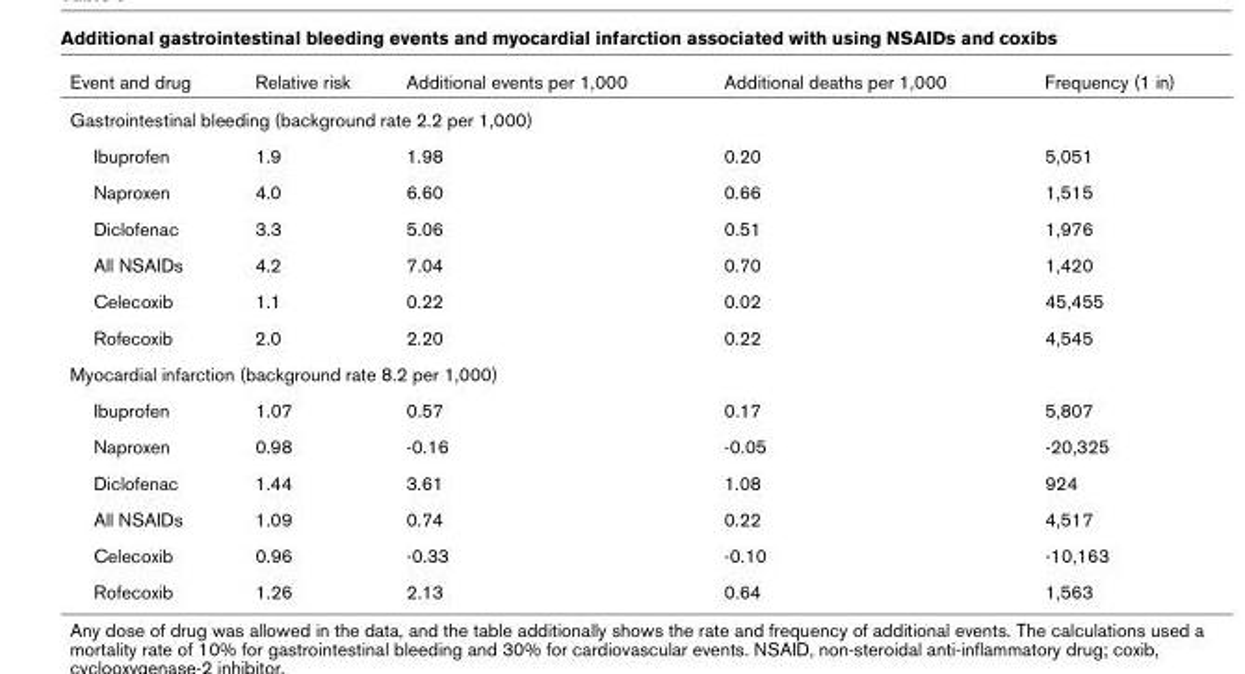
<table><thead><tr><td>Event and drug</td><td>Relative risk</td><td>Additional events per 1,000</td><td>Additional deaths per 1,000</td><td>Frequency (1 in)</td></tr></thead><tbody><tr><td colspan="5">Gastrointestinal bleeding (background rate 2.2 per 1,000)</td></tr><tr><td>Ibuprofen</td><td>1.9</td><td>1.98</td><td>0.20</td><td>5,051</td></tr><tr><td>Naproxen</td><td>4.0</td><td>6.60</td><td>0.66</td><td>1,515</td></tr><tr><td>Diclofenac</td><td>3.3</td><td>5.06</td><td>0.51</td><td>1,976</td></tr><tr><td>All NSAIDs</td><td>4.2</td><td>7.04</td><td>0.70</td><td>1,420</td></tr><tr><td>Celecoxib</td><td>1.1</td><td>0.22</td><td>0.02</td><td>45,455</td></tr><tr><td>Rofecoxib</td><td>2.0</td><td>2.20</td><td>0.22</td><td>4,545</td></tr><tr><td colspan="5">Myocardial infarction (background rate 8.2 per 1,000)</td></tr><tr><td>Ibuprofen</td><td>1.07</td><td>0.57</td><td>0.17</td><td>5,807</td></tr><tr><td>Naproxen</td><td>0.98</td><td>-0.16</td><td>-0.05</td><td>-20,325</td></tr><tr><td>Diclofenac</td><td>1.44</td><td>3.61</td><td>1.08</td><td>924</td></tr><tr><td>All NSAIDs</td><td>1.09</td><td>0.74</td><td>0.22</td><td>4,517</td></tr><tr><td>Celecoxib</td><td>0.96</td><td>-0.33</td><td>-0.10</td><td>-10,163</td></tr><tr><td>Rofecoxib</td><td>1.26</td><td>2.13</td><td>0.64</td><td>1,563</td></tr></tbody></table>